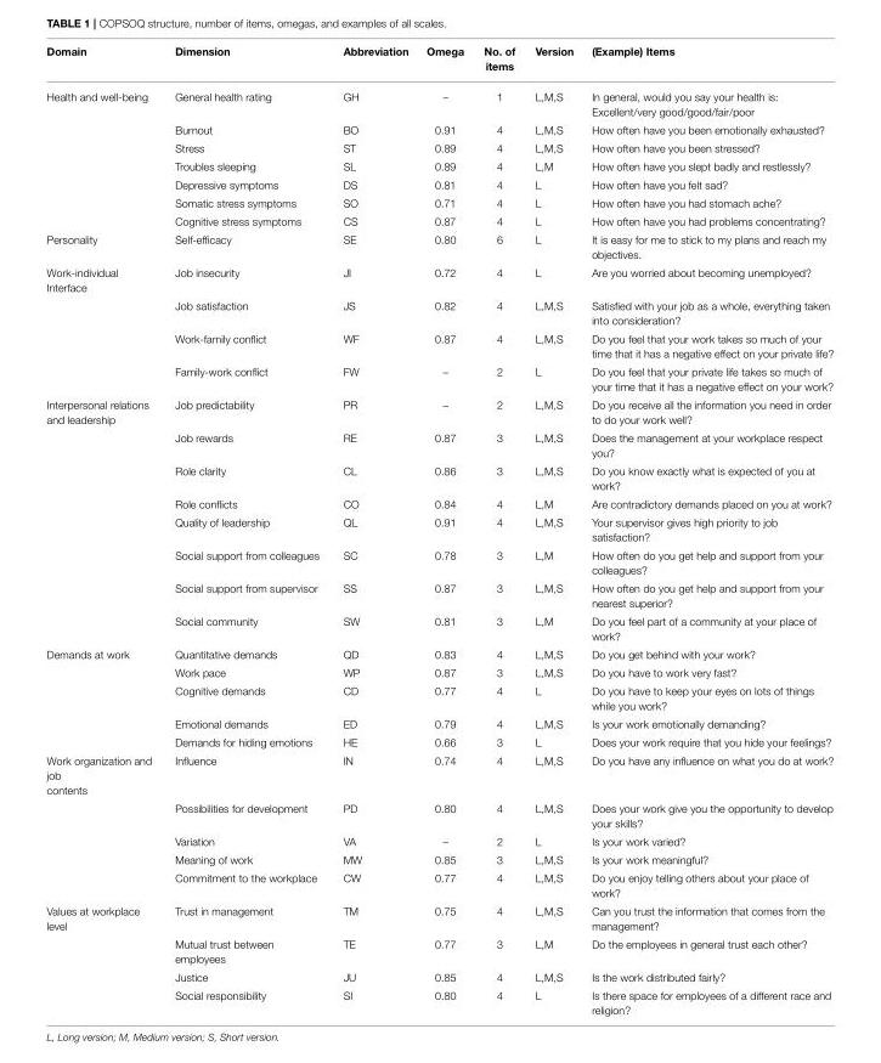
<table><thead><tr><td>Domain</td><td>Dimension</td><td>Abbreviation</td><td>Omega</td><td>No. of items</td><td>Version</td><td>(Example) Items</td></tr></thead><tbody><tr><td rowspan="7">Health and well-being</td><td>General health rating</td><td>GH</td><td>–</td><td>1</td><td>L,M,S</td><td>In general, would you say your health is: Excellent/very good/good/fair/poor</td></tr><tr><td>Burnout</td><td>BO</td><td>0.91</td><td>4</td><td>L,M,S</td><td>How often have you been emotionally exhausted?</td></tr><tr><td>Stress</td><td>ST</td><td>0.89</td><td>4</td><td>L,M,S</td><td>How often have you been stressed?</td></tr><tr><td>Troubles sleeping</td><td>SL</td><td>0.89</td><td>4</td><td>L,M</td><td>How often have you slept badly and restlessly?</td></tr><tr><td>Depressive symptoms</td><td>DS</td><td>0.81</td><td>4</td><td>L</td><td>How often have you felt sad?</td></tr><tr><td>Somatic stress symptoms</td><td>SO</td><td>0.71</td><td>4</td><td>L</td><td>How often have you had stomach ache?</td></tr><tr><td>Cognitive stress symptoms</td><td>CS</td><td>0.87</td><td>4</td><td>L</td><td>How often have you had problems concentrating?</td></tr><tr><td>Personality</td><td>Self-efficacy</td><td>SE</td><td>0.80</td><td>6</td><td>L</td><td>It is easy for me to stick to my plans and reach my objectives.</td></tr><tr><td rowspan="4">Work-individual Interface</td><td>Job insecurity</td><td>JI</td><td>0.72</td><td>4</td><td>L</td><td>Are you worried about becoming unemployed?</td></tr><tr><td>Job satisfaction</td><td>JS</td><td>0.82</td><td>4</td><td>L,M,S</td><td>Satisfied with your job as a whole, everything taken into consideration?</td></tr><tr><td>Work-family conflict</td><td>WF</td><td>0.87</td><td>4</td><td>L,M,S</td><td>Do you feel that your work takes so much of your time that it has a negative effect on your private life?</td></tr><tr><td>Family-work conflict</td><td>FW</td><td>–</td><td>2</td><td>L</td><td>Do you feel that your private life takes so much of your time that it has a negative effect on your work?</td></tr><tr><td rowspan="8">Interpersonal relations and leadership</td><td>Job predictability</td><td>PR</td><td>–</td><td>2</td><td>L,M,S</td><td>Do you receive all the information you need in order to do your work well?</td></tr><tr><td>Job rewards</td><td>RE</td><td>0.87</td><td>3</td><td>L,M,S</td><td>Does the management at your workplace respect you?</td></tr><tr><td>Role clarity</td><td>CL</td><td>0.86</td><td>3</td><td>L,M,S</td><td>Do you know exactly what is expected of you at work?</td></tr><tr><td>Role conflicts</td><td>CO</td><td>0.84</td><td>4</td><td>L,M</td><td>Are contradictory demands placed on you at work?</td></tr><tr><td>Quality of leadership</td><td>QL</td><td>0.91</td><td>4</td><td>L,M,S</td><td>Your supervisor gives high priority to job satisfaction?</td></tr><tr><td>Social support from colleagues</td><td>SC</td><td>0.78</td><td>3</td><td>L,M</td><td>How often do you get help and support from your colleagues?</td></tr><tr><td>Social support from supervisor</td><td>SS</td><td>0.87</td><td>3</td><td>L,M,S</td><td>How often do you get help and support from your nearest superior?</td></tr><tr><td>Social community</td><td>SW</td><td>0.81</td><td>3</td><td>L,M</td><td>Do you feel part of a community at your place of work?</td></tr><tr><td rowspan="5">Demands at work</td><td>Quantitative demands</td><td>QD</td><td>0.83</td><td>4</td><td>L,M,S</td><td>Do you get behind with your work?</td></tr><tr><td>Work pace</td><td>WP</td><td>0.87</td><td>3</td><td>L,M,S</td><td>Do you have to work very fast?</td></tr><tr><td>Cognitive demands</td><td>CD</td><td>0.77</td><td>4</td><td>L</td><td>Do you have to keep your eyes on lots of things while you work?</td></tr><tr><td>Emotional demands</td><td>ED</td><td>0.79</td><td>4</td><td>L,M,S</td><td>Is your work emotionally demanding?</td></tr><tr><td>Demands for hiding emotions</td><td>HE</td><td>0.66</td><td>3</td><td>L</td><td>Does your work require that you hide your feelings?</td></tr><tr><td rowspan="5">Work organization and job contents</td><td>Influence</td><td>IN</td><td>0.74</td><td>4</td><td>L,M,S</td><td>Do you have any influence on what you do at work?</td></tr><tr><td>Possibilities for development</td><td>PD</td><td>0.80</td><td>4</td><td>L,M,S</td><td>Does your work give you the opportunity to develop your skills?</td></tr><tr><td>Variation</td><td>VA</td><td>–</td><td>2</td><td>L</td><td>Is your work varied?</td></tr><tr><td>Meaning of work</td><td>MW</td><td>0.85</td><td>3</td><td>L,M,S</td><td>Is your work meaningful?</td></tr><tr><td>Commitment to the workplace</td><td>CW</td><td>0.77</td><td>4</td><td>L,M,S</td><td>Do you enjoy telling others about your place of work?</td></tr><tr><td rowspan="4">Values at workplace level</td><td>Trust in management</td><td>TM</td><td>0.75</td><td>4</td><td>L,M,S</td><td>Can you trust the information that comes from the management?</td></tr><tr><td>Mutual trust between employees</td><td>TE</td><td>0.77</td><td>3</td><td>L,M</td><td>Do the employees in general trust each other?</td></tr><tr><td>Justice</td><td>JU</td><td>0.85</td><td>4</td><td>L,M,S</td><td>Is the work distributed fairly?</td></tr><tr><td>Social responsibility</td><td>SI</td><td>0.80</td><td>4</td><td>L</td><td>Is there space for employees of a different race and religion?</td></tr></tbody></table>